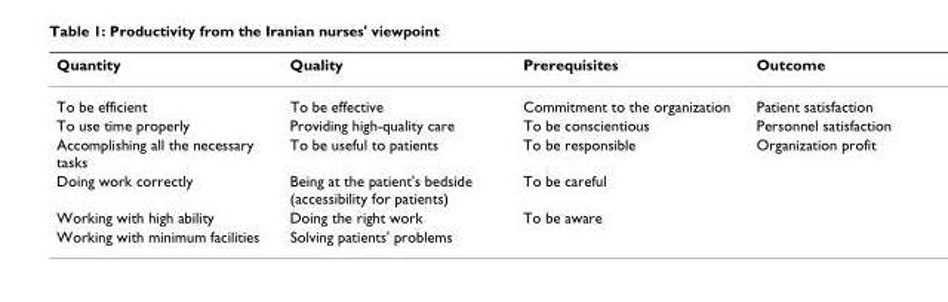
<table><thead><tr><td>Quantity</td><td>Quality</td><td>Prerequisites</td><td>Outcome</td></tr></thead><tbody><tr><td>To be efficient</td><td>To be effective</td><td>Commitment to the organization</td><td>Patient satisfaction</td></tr><tr><td>To use time properly</td><td>Providing high-quality care</td><td>To be conscientious</td><td>Personnel satisfaction</td></tr><tr><td>Accomplishing all the necessary tasks</td><td>To be useful to patients</td><td>To be responsible</td><td>Organization profit</td></tr><tr><td>Doing work correctly</td><td>Being at the patient&#x27;s bedside (accessibility for patients)</td><td>To be careful</td><td></td></tr><tr><td>Working with high ability</td><td>Doing the right work</td><td>To be aware</td><td></td></tr><tr><td>Working with minimum facilities</td><td>Solving patients&#x27; problems</td><td></td><td></td></tr></tbody></table>